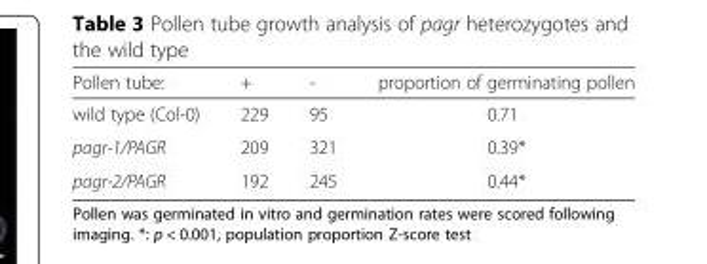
<table><thead><tr><td>Pollen tube:</td><td>+</td><td>-</td><td>proportion of germinating pollen</td></tr></thead><tbody><tr><td>wild type (Col-0)</td><td>229</td><td>95</td><td>0.71</td></tr><tr><td>pagr-1/PAGR</td><td>209</td><td>321</td><td>0.39*</td></tr><tr><td>pagr-2/PAGR</td><td>192</td><td>245</td><td>0.44*</td></tr></tbody></table>